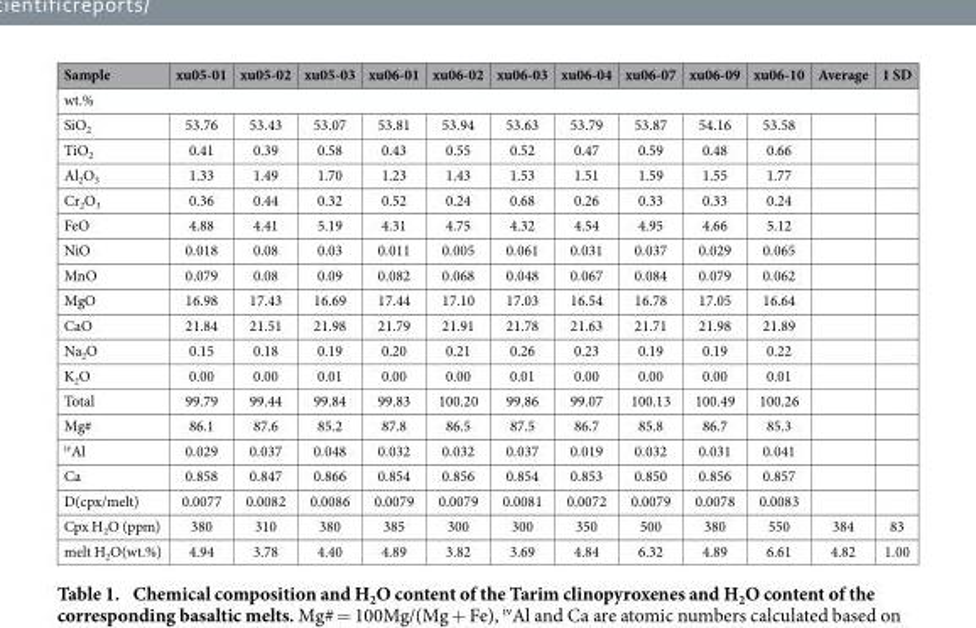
<table><thead><tr><td>Sample</td><td>xu05-01</td><td>xu05-02</td><td>xu05-03</td><td>xu06-01</td><td>xu06-02</td><td>xu06-03</td><td>xu06-04</td><td>xu06-07</td><td>xu06-09</td><td>xu06-10</td><td>Average</td><td>1 SD</td></tr></thead><tbody><tr><td colspan="13">wt.%</td></tr><tr><td>SiO<sub>2</sub></td><td>53.76</td><td>53.43</td><td>53.07</td><td>53.81</td><td>53.94</td><td>53.63</td><td>53.79</td><td>53.87</td><td>54.16</td><td>53.58</td><td></td><td></td></tr><tr><td>TiO<sub>2</sub></td><td>0.41</td><td>0.39</td><td>0.58</td><td>0.43</td><td>0.55</td><td>0.52</td><td>0.47</td><td>0.59</td><td>0.48</td><td>0.66</td><td></td><td></td></tr><tr><td>Al<sub>2</sub>O<sub>3</sub></td><td>1.33</td><td>1.49</td><td>1.70</td><td>1.23</td><td>1.43</td><td>1.53</td><td>1.51</td><td>1.59</td><td>1.55</td><td>1.77</td><td></td><td></td></tr><tr><td>Cr<sub>2</sub>O<sub>3</sub></td><td>0.36</td><td>0.44</td><td>0.32</td><td>0.52</td><td>0.24</td><td>0.68</td><td>0.26</td><td>0.33</td><td>0.33</td><td>0.24</td><td></td><td></td></tr><tr><td>FeO</td><td>4.88</td><td>4.41</td><td>5.19</td><td>4.31</td><td>4.75</td><td>4.32</td><td>4.54</td><td>4.95</td><td>4.66</td><td>5.12</td><td></td><td></td></tr><tr><td>NiO</td><td>0.018</td><td>0.08</td><td>0.03</td><td>0.011</td><td>0.005</td><td>0.061</td><td>0.031</td><td>0.037</td><td>0.029</td><td>0.065</td><td></td><td></td></tr><tr><td>MnO</td><td>0.079</td><td>0.08</td><td>0.09</td><td>0.082</td><td>0.068</td><td>0.048</td><td>0.067</td><td>0.084</td><td>0.079</td><td>0.062</td><td></td><td></td></tr><tr><td>MgO</td><td>16.98</td><td>17.43</td><td>16.69</td><td>17.44</td><td>17.10</td><td>17.03</td><td>16.54</td><td>16.78</td><td>17.05</td><td>16.64</td><td></td><td></td></tr><tr><td>CaO</td><td>21.84</td><td>21.51</td><td>21.98</td><td>21.79</td><td>21.91</td><td>21.78</td><td>21.63</td><td>21.71</td><td>21.98</td><td>21.89</td><td></td><td></td></tr><tr><td>Na<sub>2</sub>O</td><td>0.15</td><td>0.18</td><td>0.19</td><td>0.20</td><td>0.21</td><td>0.26</td><td>0.23</td><td>0.19</td><td>0.19</td><td>0.22</td><td></td><td></td></tr><tr><td>K<sub>2</sub>O</td><td>0.00</td><td>0.00</td><td>0.01</td><td>0.00</td><td>0.00</td><td>0.01</td><td>0.00</td><td>0.00</td><td>0.00</td><td>0.01</td><td></td><td></td></tr><tr><td>Total</td><td>99.79</td><td>99.44</td><td>99.84</td><td>99.83</td><td>100.20</td><td>99.86</td><td>99.07</td><td>100.13</td><td>100.49</td><td>100.26</td><td></td><td></td></tr><tr><td>Mg#</td><td>86.1</td><td>87.6</td><td>85.2</td><td>87.8</td><td>86.5</td><td>87.5</td><td>86.7</td><td>85.8</td><td>86.7</td><td>85.3</td><td></td><td></td></tr><tr><td><sup>iv</sup>Al</td><td>0.029</td><td>0.037</td><td>0.048</td><td>0.032</td><td>0.032</td><td>0.037</td><td>0.019</td><td>0.032</td><td>0.031</td><td>0.041</td><td></td><td></td></tr><tr><td>Ca</td><td>0.858</td><td>0.847</td><td>0.866</td><td>0.854</td><td>0.856</td><td>0.854</td><td>0.853</td><td>0.850</td><td>0.856</td><td>0.857</td><td></td><td></td></tr><tr><td>D(cpx/melt)</td><td>0.0077</td><td>0.0082</td><td>0.0086</td><td>0.0079</td><td>0.0079</td><td>0.0081</td><td>0.0072</td><td>0.0079</td><td>0.0078</td><td>0.0083</td><td></td><td></td></tr><tr><td>Cpx H<sub>2</sub>O (ppm)</td><td>380</td><td>310</td><td>380</td><td>385</td><td>300</td><td>300</td><td>350</td><td>500</td><td>380</td><td>550</td><td>384</td><td>83</td></tr><tr><td>melt H<sub>2</sub>O(wt.%)</td><td>4.94</td><td>3.78</td><td>4.40</td><td>4.89</td><td>3.82</td><td>3.69</td><td>4.84</td><td>6.32</td><td>4.89</td><td>6.61</td><td>4.82</td><td>1.00</td></tr></tbody></table>